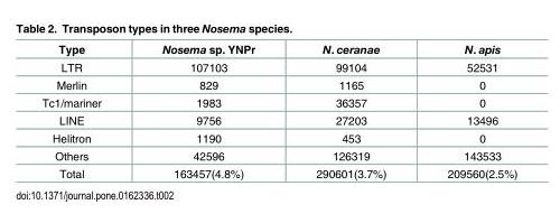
<table><thead><tr><td>Type</td><td>Nosema sp. YNPr</td><td>N. ceranae</td><td>N. apis</td></tr></thead><tbody><tr><td>LTR</td><td>107103</td><td>99104</td><td>52531</td></tr><tr><td>Merlin</td><td>829</td><td>1165</td><td>0</td></tr><tr><td>Tc1/mariner</td><td>1983</td><td>36357</td><td>0</td></tr><tr><td>LINE</td><td>9756</td><td>27203</td><td>13496</td></tr><tr><td>Helitron</td><td>1190</td><td>453</td><td>0</td></tr><tr><td>Others</td><td>42596</td><td>126319</td><td>143533</td></tr><tr><td>Total</td><td>163457(4.8%)</td><td>290601(3.7%)</td><td>209560(2.5%)</td></tr></tbody></table>